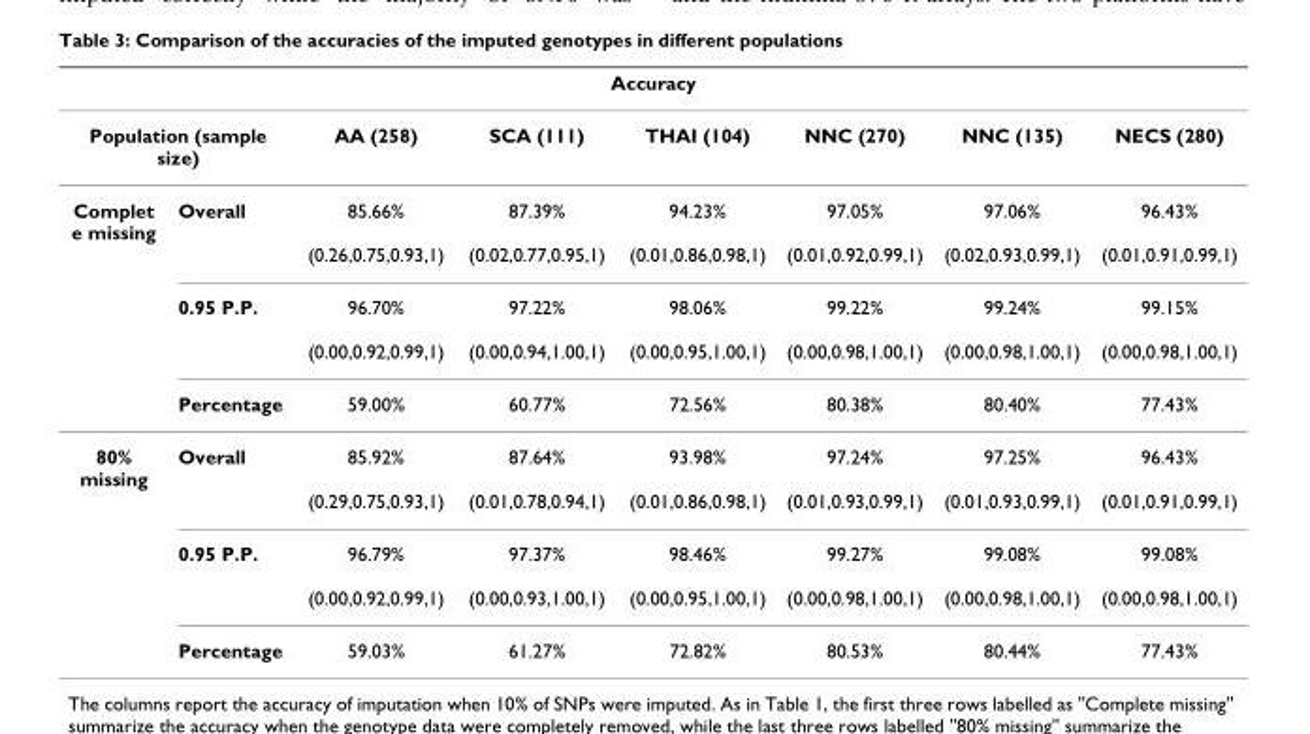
<table><thead><tr><td colspan="8">Accuracy</td></tr><tr><td colspan="2">Population (sample size)</td><td rowspan="2">AA (258) 85.66% (0.26,0.75,0.93,1)</td><td rowspan="2">SCA (111) 87.39% (0.02,0.77,0.95,1)</td><td rowspan="2">THAI (104) 94.23% (0.01,0.86,0.98,1)</td><td rowspan="2">NNC (270) 97.05% (0.01,0.92,0.99,1)</td><td rowspan="2">NNC (135) 97.06% (0.02,0.93,0.99,1)</td><td rowspan="2">NECS (280) 96.43% (0.01,0.91,0.99,1)</td></tr><tr><td>Complet e missing</td><td>Overall</td></tr></thead><tbody><tr><td></td><td>0.95 P.P.</td><td>96.70% (0.00,0.92,0.99,1)</td><td>97.22% (0.00,0.94,1.00,1)</td><td>98.06% (0.00,0.95,1.00,1)</td><td>99.22% (0.00,0.98,1.00,1)</td><td>99.24% (0.00,0.98,1.00,1)</td><td>99.15% (0.00,0.98,1.00,1)</td></tr><tr><td></td><td>Percentage</td><td>59.00%</td><td>60.77%</td><td>72.56%</td><td>80.38%</td><td>80.40%</td><td>77.43%</td></tr><tr><td rowspan="3">80% missing</td><td>Overall</td><td>85.92% (0.29,0.75,0.93,1)</td><td>87.64% (0.01,0.78,0.94,1)</td><td>93.98% (0.01,0.86,0.98,1)</td><td>97.24% (0.01,0.93,0.99,1)</td><td>97.25% (0.01,0.93,0.99,1)</td><td>96.43% (0.01,0.91,0.99,1)</td></tr><tr><td>0.95 P.P.</td><td>96.79% (0.00,0.92,0.99,1)</td><td>97.37% (0.00,0.93,1.00,1)</td><td>98.46% (0.00,0.95,1.00,1)</td><td>99.27% (0.00,0.98,1.00,1)</td><td>99.08% (0.00,0.98,1.00,1)</td><td>99.08% (0.00,0.98,1.00,1)</td></tr><tr><td>Percentage</td><td>59.03%</td><td>61.27%</td><td>72.82%</td><td>80.53%</td><td>80.44%</td><td>77.43%</td></tr></tbody></table>